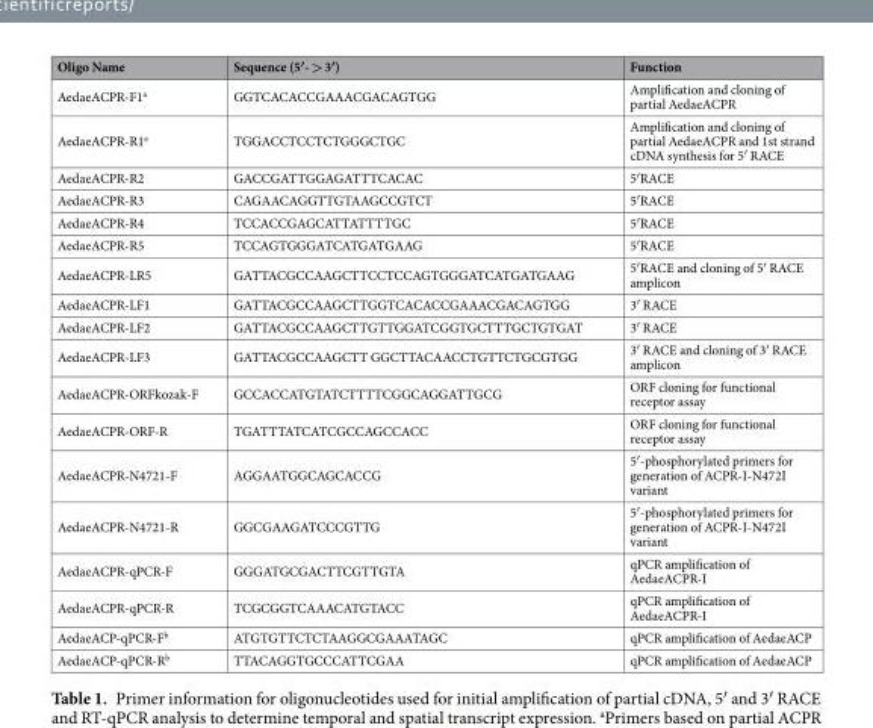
<table><thead><tr><td>Oligo Name</td><td>Sequence (5′- &gt; 3′)</td><td>Function</td></tr></thead><tbody><tr><td>AedaeACPR-F1<sup>a</sup></td><td>GGTCACACCGAAACGACAGTGG</td><td>Amplification and cloning of partial AedaeACPR</td></tr><tr><td>AedaeACPR-R1<sup>a</sup></td><td>TGGACCTCCTCTGGGCTGC</td><td>Amplification and cloning of partial AedaeACPR and 1st strand cDNA synthesis for 5′ RACE</td></tr><tr><td>AedaeACPR-R2</td><td>GACCGATTGGAGATTTCACAC</td><td>5′RACE</td></tr><tr><td>AedaeACPR-R3</td><td>CAGAACAGGTTGTAAGCCGTCT</td><td>5′RACE</td></tr><tr><td>AedaeACPR-R4</td><td>TCCACCGAGCATTATTTTGC</td><td>5′RACE</td></tr><tr><td>AedaeACPR-R5</td><td>TCCAGTGGGATCATGATGAAG</td><td>5′RACE</td></tr><tr><td>AedaeACPR-LR5</td><td>GATTACGCCAAGCTTCCTCCAGTGGGATCATGATGAAG</td><td>5′RACE and cloning of 5′ RACE amplicon</td></tr><tr><td>AedaeACPR-LF1</td><td>GATTACGCCAAGCTTGGTCACACCGAAACGACAGTGG</td><td>3′ RACE</td></tr><tr><td>AedaeACPR-LF2</td><td>GATTACGCCAAGCTTGTTGGATCGGTGCTTTGCTGTGAT</td><td>3′ RACE</td></tr><tr><td>AedaeACPR-LF3</td><td>GATTACGCCAAGCTT GGCTTACAACCTGTTCTGCGTGG</td><td>3′ RACE and cloning of 3′ RACE amplicon</td></tr><tr><td>AedaeACPR-ORFkozak-F</td><td>GCCACCATGTATCTTTTCGGCAGGATTGCG</td><td>ORF cloning for functional receptor assay</td></tr><tr><td>AedaeACPR-ORF-R</td><td>TGATTTATCATCGCCAGCCACC</td><td>ORF cloning for functional receptor assay</td></tr><tr><td>AedaeACPR-N4721-F</td><td>AGGAATGGCAGCACCG</td><td>5′-phosphorylated primers for generation of ACPR-I-N472I variant</td></tr><tr><td>AedaeACPR-N4721-R</td><td>GGCGAAGATCCCGTTG</td><td>5′-phosphorylated primers for generation of ACPR-I-N472I variant</td></tr><tr><td>AedaeACPR-qPCR-F</td><td>GGGATGCGACTTCGTTGTA</td><td>qPCR amplification of AedaeACPR-I</td></tr><tr><td>AedaeACPR-qPCR-R</td><td>TCGCGGTCAAACATGTACC</td><td>qPCR amplification of AedaeACPR-I</td></tr><tr><td>AedaeACP-qPCR-F<sup>b</sup></td><td>ATGTGTTCTCTAAGGCGAAATAGC</td><td>qPCR amplification of AedaeACP</td></tr><tr><td>AedaeACP-qPCR-R<sup>b</sup></td><td>TTACAGGTGCCCATTCGAA</td><td>qPCR amplification of AedaeACP</td></tr></tbody></table>